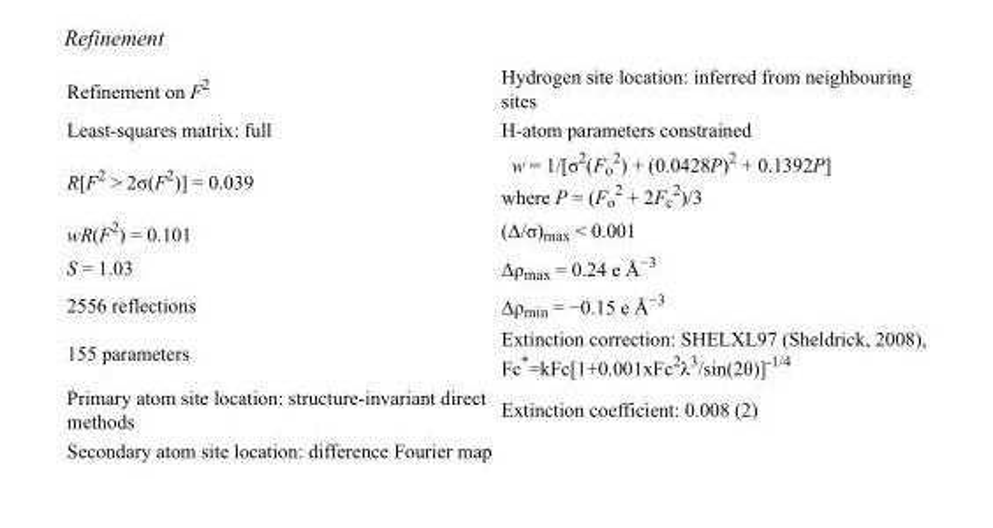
<table><tbody><tr><td>Refinement on F<sup>2</sup></td><td>Hydrogen site location: inferred from neighbouring sites</td></tr><tr><td>Least-squares matrix: full</td><td>H-atom parameters constrained</td></tr><tr><td>R[F<sup>2</sup> &gt; 2σ(F<sup>2</sup>)] = 0.039</td><td>w = 1/[σ<sup>2</sup>(F<sub>o</sub> <sup>2</sup>) + (0.0428P)<sup>2</sup> + 0.1392P] where P = (F<sub>o</sub> <sup>2</sup> + 2F<sub>c</sub> <sup>2</sup>)/3</td></tr><tr><td>wR(F<sup>2</sup>) = 0.101</td><td>(Δ/σ)<sub>max</sub> &lt; 0.001</td></tr><tr><td>S = 1.03</td><td>Δρ<sub>max</sub> = 0.24 e Å<sup>−3</sup></td></tr><tr><td>2556 reflections</td><td>Δρ<sub>min</sub> = −0.15 e Å<sup>−3</sup></td></tr><tr><td>155 parameters</td><td>Extinction correction: SHELXL97 (Sheldrick, 2008), Fc*=kFc[1+0.001xFc<sup>2</sup>λ<sup>3</sup>/sin(2θ)]<sup>-1/4</sup></td></tr><tr><td>Primary atom site location: structure-invariant direct methods</td><td>Extinction coefficient: 0.008 (2)</td></tr><tr><td>Secondary atom site location: difference Fourier map</td><td></td></tr></tbody></table>